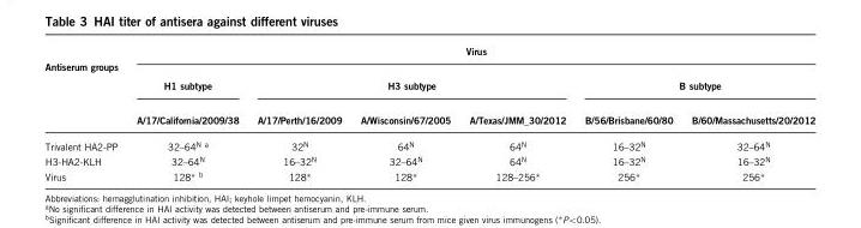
<table><thead><tr><td rowspan="3">Antiserum groups</td><td colspan="6">Virus</td></tr><tr><td rowspan="2">H1 subtype A/17/California/2009/38</td><td colspan="3">H3 subtype</td><td colspan="2">B subtype</td></tr><tr><td>A/17/Perth/16/2009</td><td>A/Wisconsin/67/2005</td><td>A/Texas/JMM_30/2012</td><td>B/56/Brisbane/60/80</td><td>B/60/Massachusetts/20/2012</td></tr></thead><tbody><tr><td>Trivalent HA2-PP</td><td>32–64<sup>N</sup> a</td><td>32<sup>N</sup></td><td>64<sup>N</sup></td><td>64<sup>N</sup></td><td>16–32<sup>N</sup></td><td>32–64<sup>N</sup></td></tr><tr><td>H3-HA2-KLH</td><td>32–64<sup>N</sup></td><td>16–32<sup>N</sup></td><td>32–64<sup>N</sup></td><td>64<sup>N</sup></td><td>16–32<sup>N</sup></td><td>16–32<sup>N</sup></td></tr><tr><td>Virus</td><td>128* b</td><td>128*</td><td>128*</td><td>128–256*</td><td>256*</td><td>256*</td></tr></tbody></table>